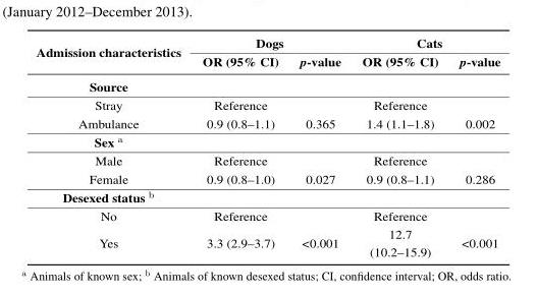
<table><thead><tr><td rowspan="2">Admission characteristics</td><td colspan="2">Dogs</td><td colspan="2">Cats</td></tr><tr><td>OR (95% CI)</td><td>p-value</td><td>OR (95% CI)</td><td>p-value</td></tr></thead><tbody><tr><td colspan="5">Source</td></tr><tr><td>Stray</td><td>Reference</td><td></td><td>Reference</td><td></td></tr><tr><td>Ambulance</td><td>0.9 (0.8–1.1)</td><td>0.365</td><td>1.4 (1.1–1.8)</td><td>0.002</td></tr><tr><td colspan="5">Sex <sup>a</sup></td></tr><tr><td>Male</td><td>Reference</td><td></td><td>Reference</td><td></td></tr><tr><td>Female</td><td>0.9 (0.8–1.0)</td><td>0.027</td><td>0.9 (0.8–1.1)</td><td>0.286</td></tr><tr><td colspan="5">Desexed status <sup>b</sup></td></tr><tr><td>No</td><td>Reference</td><td></td><td>Reference</td><td></td></tr><tr><td>Yes</td><td>3.3 (2.9–3.7)</td><td>&lt;0.001</td><td>12.7 (10.2–15.9)</td><td>&lt;0.001</td></tr></tbody></table>